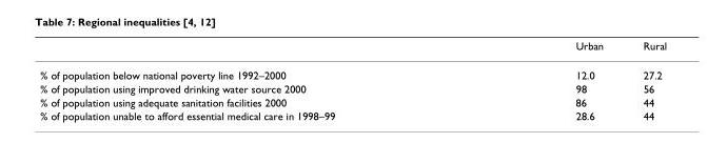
<table><thead><tr><td></td><td>Urban</td><td>Rural</td></tr></thead><tbody><tr><td>% of population below national poverty line 1992–2000</td><td>12.0</td><td>27.2</td></tr><tr><td>% of population using improved drinking water source 2000</td><td>98</td><td>56</td></tr><tr><td>% of population using adequate sanitation facilities 2000</td><td>86</td><td>44</td></tr><tr><td>% of population unable to afford essential medical care in 1998–99</td><td>28.6</td><td>44</td></tr></tbody></table>